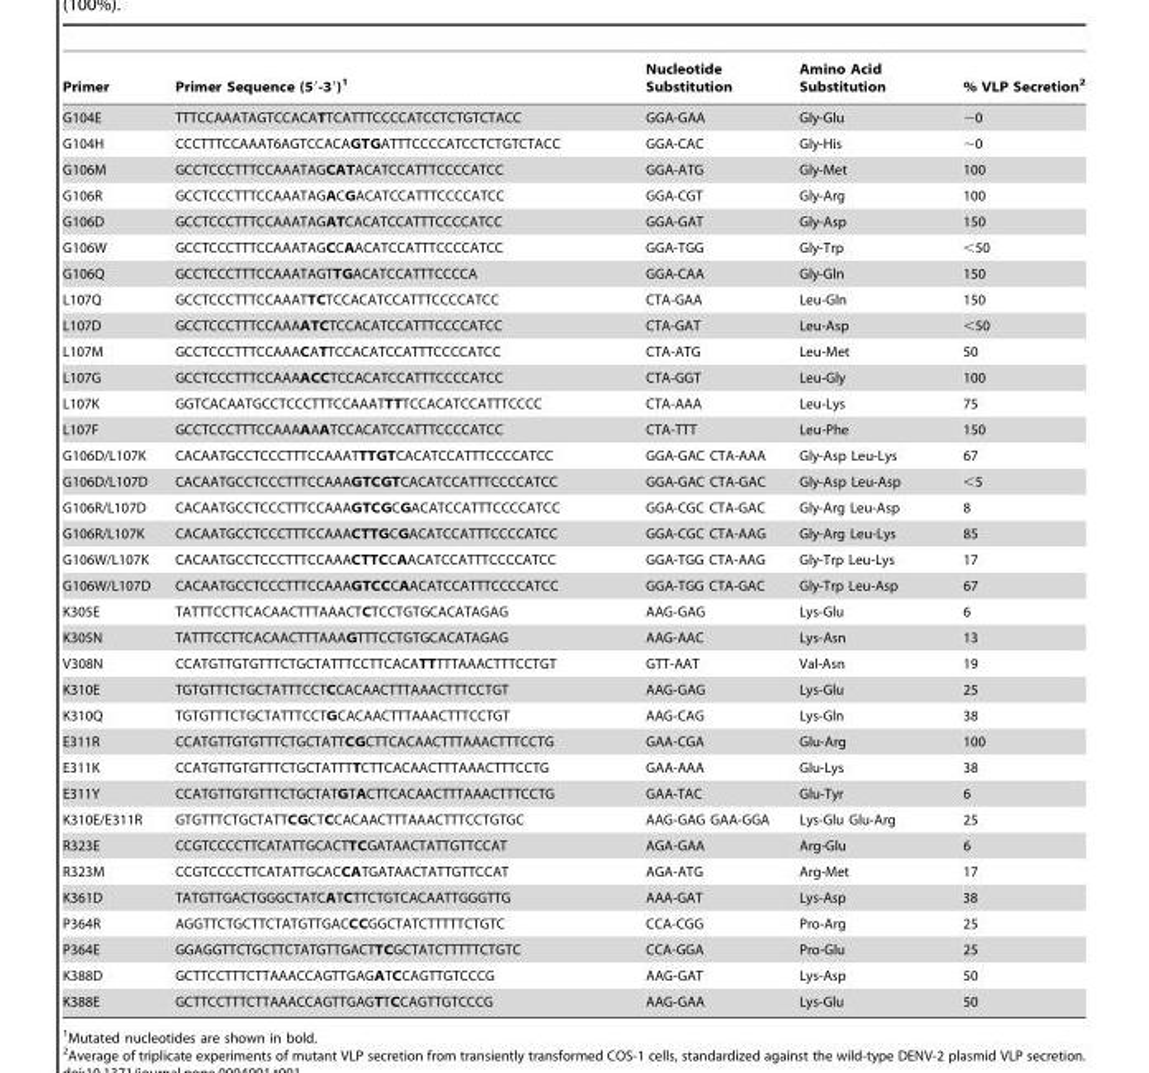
<table><thead><tr><td>Primer</td><td>Primer Sequence (5′-3′)<sup>1</sup></td><td>Nucleotide Substitution</td><td>Amino Acid Substitution</td><td>% VLP Secretion<sup>2</sup></td></tr></thead><tbody><tr><td>G104E</td><td>TTTCCAAATAGTCCACATTCATTTCCCCATCCTCTGTCTACC</td><td>GGA-GAA</td><td>Gly-Glu</td><td>∼0</td></tr><tr><td>G104H</td><td>CCCTTTCCAAAT6AGTCCACAGTGATTTCCCCATCCTCTGTCTACC</td><td>GGA-CAC</td><td>Gly-His</td><td>∼0</td></tr><tr><td>G106M</td><td>GCCTCCCTTTCCAAATAGCATACATCCATTTCCCCATCC</td><td>GGA-ATG</td><td>Gly-Met</td><td>100</td></tr><tr><td>G106R</td><td>GCCTCCCTTTCCAAATAGACGACATCCATTTCCCCATCC</td><td>GGA-CGT</td><td>Gly-Arg</td><td>100</td></tr><tr><td>G106D</td><td>GCCTCCCTTTCCAAATAGATCACATCCATTTCCCCATCC</td><td>GGA-GAT</td><td>Gly-Asp</td><td>150</td></tr><tr><td>G106W</td><td>GCCTCCCTTTCCAAATAGCCAACATCCATTTCCCCATCC</td><td>GGA-TGG</td><td>Gly-Trp</td><td>&lt;50</td></tr><tr><td>G106Q</td><td>GCCTCCCTTTCCAAATAGTTGACATCCATTTCCCCA</td><td>GGA-CAA</td><td>Gly-Gln</td><td>150</td></tr><tr><td>L107Q</td><td>GCCTCCCTTTCCAAATTCTCCACATCCATTTCCCCATCC</td><td>CTA-GAA</td><td>Leu-Gln</td><td>150</td></tr><tr><td>L107D</td><td>GCCTCCCTTTCCAAAATCTCCACATCCATTTCCCCATCC</td><td>CTA-GAT</td><td>Leu-Asp</td><td>&lt;50</td></tr><tr><td>L107M</td><td>GCCTCCCTTTCCAAACATTCCACATCCATTTCCCCATCC</td><td>CTA-ATG</td><td>Leu-Met</td><td>50</td></tr><tr><td>L107G</td><td>GCCTCCCTTTCCAAAACCTCCACATCCATTTCCCCATCC</td><td>CTA-GGT</td><td>Leu-Gly</td><td>100</td></tr><tr><td>L107K</td><td>GGTCACAATGCCTCCCTTTCCAAATTTTCCACATCCATTTCCCC</td><td>CTA-AAA</td><td>Leu-Lys</td><td>75</td></tr><tr><td>L107F</td><td>GCCTCCCTTTCCAAAAAATCCACATCCATTTCCCCATCC</td><td>CTA-TTT</td><td>Leu-Phe</td><td>150</td></tr><tr><td>G106D/L107K</td><td>CACAATGCCTCCCTTTCCAAATTTGTCACATCCATTTCCCCATCC</td><td>GGA-GAC CTA-AAA</td><td>Gly-Asp Leu-Lys</td><td>67</td></tr><tr><td>G106D/L107D</td><td>CACAATGCCTCCCTTTCCAAAGTCGTCACATCCATTTCCCCATCC</td><td>GGA-GAC CTA-GAC</td><td>Gly-Asp Leu-Asp</td><td>&lt;5</td></tr><tr><td>G106R/L107D</td><td>CACAATGCCTCCCTTTCCAAAGTCGCGACATCCATTTCCCCATCC</td><td>GGA-CGC CTA-GAC</td><td>Gly-Arg Leu-Asp</td><td>8</td></tr><tr><td>G106R/L107K</td><td>CACAATGCCTCCCTTTCCAAACTTGCGACATCCATTTCCCCATCC</td><td>GGA-CGC CTA-AAG</td><td>Gly-Arg Leu-Lys</td><td>85</td></tr><tr><td>G106W/L107K</td><td>CACAATGCCTCCCTTTCCAAACTTCCAACATCCATTTCCCCATCC</td><td>GGA-TGG CTA-AAG</td><td>Gly-Trp Leu-Lys</td><td>17</td></tr><tr><td>G106W/L107D</td><td>CACAATGCCTCCCTTTCCAAAGTCCCAACATCCATTTCCCCATCC</td><td>GGA-TGG CTA-GAC</td><td>Gly-Trp Leu-Asp</td><td>67</td></tr><tr><td>K305E</td><td>TATTTCCTTCACAACTTTAAACTCTCCTGTGCACATAGAG</td><td>AAG-GAG</td><td>Lys-Glu</td><td>6</td></tr><tr><td>K305N</td><td>TATTTCCTTCACAACTTTAAAGTTTCCTGTGCACATAGAG</td><td>AAG-AAC</td><td>Lys-Asn</td><td>13</td></tr><tr><td>V308N</td><td>CCATGTTGTGTTTCTGCTATTTCCTTCACATTTTTAAACTTTCCTGT</td><td>GTT-AAT</td><td>Val-Asn</td><td>19</td></tr><tr><td>K310E</td><td>TGTGTTTCTGCTATTTCCTCCACAACTTTAAACTTTCCTGT</td><td>AAG-GAG</td><td>Lys-Glu</td><td>25</td></tr><tr><td>K310Q</td><td>TGTGTTTCTGCTATTTCCTGCACAACTTTAAACTTTCCTGT</td><td>AAG-CAG</td><td>Lys-Gln</td><td>38</td></tr><tr><td>E311R</td><td>CCATGTTGTGTTTCTGCTATTCGCTTCACAACTTTAAACTTTCCTG</td><td>GAA-CGA</td><td>Glu-Arg</td><td>100</td></tr><tr><td>E311K</td><td>CCATGTTGTGTTTCTGCTATTTTCTTCACAACTTTAAACTTTCCTG</td><td>GAA-AAA</td><td>Glu-Lys</td><td>38</td></tr><tr><td>E311Y</td><td>CCATGTTGTGTTTCTGCTATGTACTTCACAACTTTAAACTTTCCTG</td><td>GAA-TAC</td><td>Glu-Tyr</td><td>6</td></tr><tr><td>K310E/E311R</td><td>GTGTTTCTGCTATTCGCTCCACAACTTTAAACTTTCCTGTGC</td><td>AAG-GAG GAA-GGA</td><td>Lys-Glu Glu-Arg</td><td>25</td></tr><tr><td>R323E</td><td>CCGTCCCCTTCATATTGCACTTCGATAACTATTGTTCCAT</td><td>AGA-GAA</td><td>Arg-Glu</td><td>6</td></tr><tr><td>R323M</td><td>CCGTCCCCTTCATATTGCACCATGATAACTATTGTTCCAT</td><td>AGA-ATG</td><td>Arg-Met</td><td>17</td></tr><tr><td>K361D</td><td>TATGTTGACTGGGCTATCATCTTCTGTCACAATTGGGTTG</td><td>AAA-GAT</td><td>Lys-Asp</td><td>38</td></tr><tr><td>P364R</td><td>AGGTTCTGCTTCTATGTTGACCCGGCTATCTTTTTCTGTC</td><td>CCA-CGG</td><td>Pro-Arg</td><td>25</td></tr><tr><td>P364E</td><td>GGAGGTTCTGCTTCTATGTTGACTTCGCTATCTTTTTCTGTC</td><td>CCA-GGA</td><td>Pro-Glu</td><td>25</td></tr><tr><td>K388D</td><td>GCTTCCTTTCTTAAACCAGTTGAGATCCAGTTGTCCCG</td><td>AAG-GAT</td><td>Lys-Asp</td><td>50</td></tr><tr><td>K388E</td><td>GCTTCCTTTCTTAAACCAGTTGAGTTCCAGTTGTCCCG</td><td>AAG-GAA</td><td>Lys-Glu</td><td>50</td></tr></tbody></table>